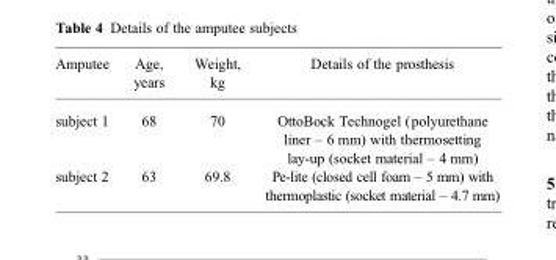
<table><thead><tr><td>Amputee</td><td>Age, years</td><td>Weight, kg</td><td>Details of the prosthesis</td></tr></thead><tbody><tr><td>subject 1</td><td>68</td><td>70</td><td>OttoBock Technogel (polyurethane liner – 6 mm) with thermosetting lay-up (socket material – 4 mm)</td></tr><tr><td>subject 2</td><td>63</td><td>69.8</td><td>Pe-lite (closed cell foam – 5 mm) with thermoplastic (socket material – 4.7 mm)</td></tr></tbody></table>